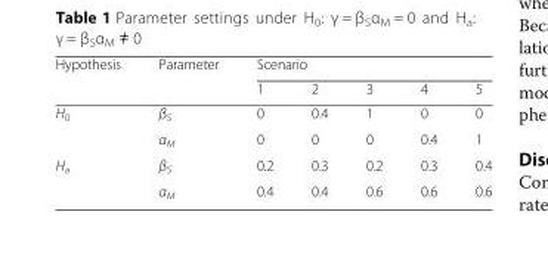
<table><thead><tr><td rowspan="2">Hypothesis</td><td rowspan="2">Parameter</td><td colspan="5">Scenario</td></tr><tr><td>1</td><td>2</td><td>3</td><td>4</td><td>5</td></tr></thead><tbody><tr><td rowspan="2">H<sub>0</sub></td><td>β<sub>S</sub></td><td>0</td><td>0.4</td><td>1</td><td>0</td><td>0</td></tr><tr><td>α<sub>M</sub></td><td>0</td><td>0</td><td>0</td><td>0.4</td><td>1</td></tr><tr><td rowspan="2">H<sub>a</sub></td><td>β<sub>S</sub></td><td>0.2</td><td>0.3</td><td>0.2</td><td>0.3</td><td>0.4</td></tr><tr><td>α<sub>M</sub></td><td>0.4</td><td>0.4</td><td>0.6</td><td>0.6</td><td>0.6</td></tr></tbody></table>